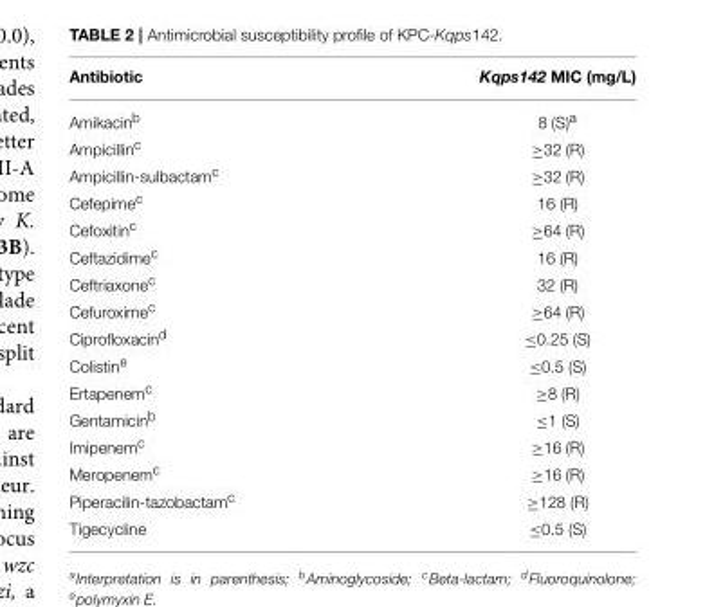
<table><thead><tr><td>Antibiotic</td><td>Kqps142 MIC (mg/L)</td></tr></thead><tbody><tr><td>Amikacin<sup>b</sup></td><td>8 (S)<sup>a</sup></td></tr><tr><td>Ampicillin<sup>c</sup></td><td>≥32 (R)</td></tr><tr><td>Ampicillin-sulbactam<sup>c</sup></td><td>≥32 (R)</td></tr><tr><td>Cefepime<sup>c</sup></td><td>16 (R)</td></tr><tr><td>Cefoxitin<sup>c</sup></td><td>≥64 (R)</td></tr><tr><td>Ceftazidime<sup>c</sup></td><td>16 (R)</td></tr><tr><td>Ceftriaxone<sup>c</sup></td><td>32 (R)</td></tr><tr><td>Cefuroxime<sup>c</sup></td><td>≥64 (R)</td></tr><tr><td>Ciprofloxacin<sup>d</sup></td><td>≤0.25 (S)</td></tr><tr><td>Colistin<sup>e</sup></td><td>≤0.5 (S)</td></tr><tr><td>Ertapenem<sup>c</sup></td><td>≥8 (R)</td></tr><tr><td>Gentamicin<sup>b</sup></td><td>≤1 (S)</td></tr><tr><td>Imipenem<sup>c</sup></td><td>≥16 (R)</td></tr><tr><td>Meropenem<sup>c</sup></td><td>≥16 (R)</td></tr><tr><td>Piperacilin-tazobactam<sup>c</sup></td><td>≥128 (R)</td></tr><tr><td>Tigecycline</td><td>≤0.5 (S)</td></tr></tbody></table>